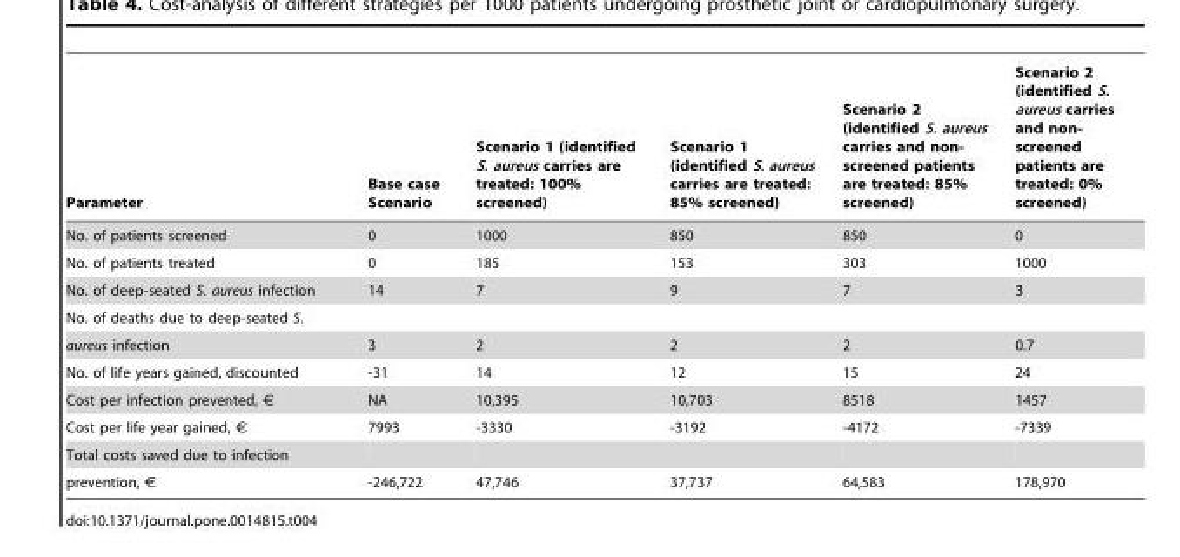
<table><thead><tr><td>Parameter</td><td>Base case Scenario</td><td>Scenario 1 (identified S. aureus carries are treated: 100% screened)</td><td>Scenario 1 (identified S. aureus carries are treated: 85% screened)</td><td>Scenario 2 (identified S. aureus carries and non- screened patients are treated: 85% screened)</td><td>Scenario 2 (identified S. aureus carries and non- screened patients are treated: 0% screened)</td></tr></thead><tbody><tr><td>No. of patients screened</td><td>0</td><td>1000</td><td>850</td><td>850</td><td>0</td></tr><tr><td>No. of patients treated</td><td>0</td><td>185</td><td>153</td><td>303</td><td>1000</td></tr><tr><td>No. of deep-seated S. aureus infection</td><td>14</td><td>7</td><td>9</td><td>7</td><td>3</td></tr><tr><td colspan="6">No. of deaths due to deep-seated S.</td></tr><tr><td>aureus infection</td><td>3</td><td>2</td><td>2</td><td>2</td><td>0.7</td></tr><tr><td>No. of life years gained, discounted</td><td>-31</td><td>14</td><td>12</td><td>15</td><td>24</td></tr><tr><td>Cost per infection prevented, €</td><td>NA</td><td>10,395</td><td>10,703</td><td>8518</td><td>1457</td></tr><tr><td>Cost per life year gained, €</td><td>7993</td><td>-3330</td><td>-3192</td><td>-4172</td><td>-7339</td></tr><tr><td colspan="6">Total costs saved due to infection</td></tr><tr><td>prevention, €</td><td>-246,722</td><td>47,746</td><td>37,737</td><td>64,583</td><td>178,970</td></tr></tbody></table>